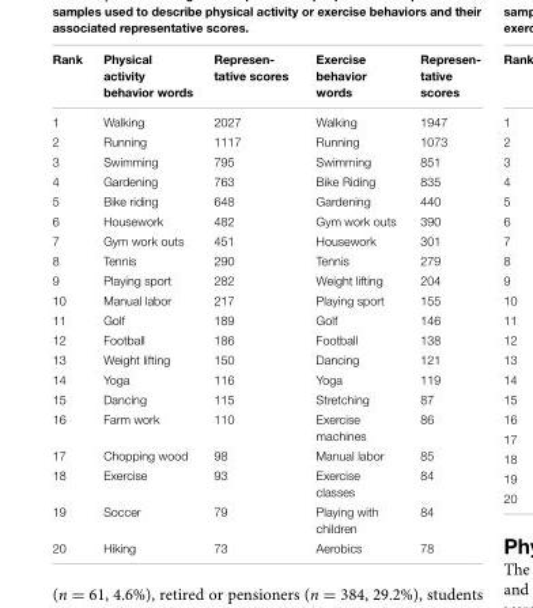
<table><thead><tr><td>Rank</td><td>Physical activity behavior words</td><td>Represen- tative scores</td><td>Exercise behavior words</td><td>Represen- tative scores</td></tr></thead><tbody><tr><td>1</td><td>Walking</td><td>2027</td><td>Walking</td><td>1947</td></tr><tr><td>2</td><td>Running</td><td>1117</td><td>Running</td><td>1073</td></tr><tr><td>3</td><td>Swimming</td><td>795</td><td>Swimming</td><td>851</td></tr><tr><td>4</td><td>Gardening</td><td>763</td><td>Bike Riding</td><td>835</td></tr><tr><td>5</td><td>Bike riding</td><td>648</td><td>Gardening</td><td>440</td></tr><tr><td>6</td><td>Housework</td><td>482</td><td>Gym work outs</td><td>390</td></tr><tr><td>7</td><td>Gym work outs</td><td>451</td><td>Housework</td><td>301</td></tr><tr><td>8</td><td>Tennis</td><td>290</td><td>Tennis</td><td>279</td></tr><tr><td>9</td><td>Playing sport</td><td>282</td><td>Weight lifting</td><td>204</td></tr><tr><td>10</td><td>Manual labor</td><td>217</td><td>Playing sport</td><td>155</td></tr><tr><td>11</td><td>Golf</td><td>189</td><td>Golf</td><td>146</td></tr><tr><td>12</td><td>Football</td><td>186</td><td>Football</td><td>138</td></tr><tr><td>13</td><td>Weight lifting</td><td>150</td><td>Dancing</td><td>121</td></tr><tr><td>14</td><td>Yoga</td><td>116</td><td>Yoga</td><td>119</td></tr><tr><td>15</td><td>Dancing</td><td>115</td><td>Stretching</td><td>87</td></tr><tr><td>16</td><td>Farm work</td><td>110</td><td>Exercise machines</td><td>86</td></tr><tr><td>17</td><td>Chopping wood</td><td>98</td><td>Manual labor</td><td>85</td></tr><tr><td>18</td><td>Exercise</td><td>93</td><td>Exercise classes</td><td>84</td></tr><tr><td>19</td><td>Soccer</td><td>79</td><td>Playing with children</td><td>84</td></tr><tr><td>20</td><td>Hiking</td><td>73</td><td>Aerobics</td><td>78</td></tr></tbody></table>